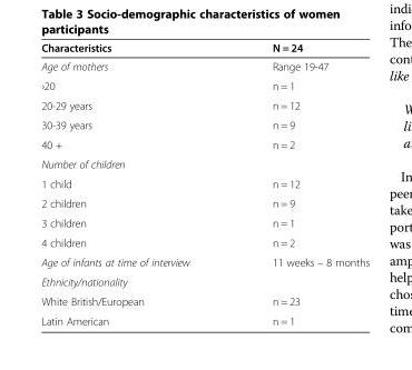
<table><thead><tr><td>Characteristics</td><td>N = 24</td></tr></thead><tbody><tr><td>Age of mothers</td><td>Range 19-47</td></tr><tr><td>›20</td><td>n = 1</td></tr><tr><td>20-29 years</td><td>n = 12</td></tr><tr><td>30-39 years</td><td>n = 9</td></tr><tr><td>40 +</td><td>n = 2</td></tr><tr><td colspan="2">Number of children</td></tr><tr><td>1 child</td><td>n = 12</td></tr><tr><td>2 children</td><td>n = 9</td></tr><tr><td>3 children</td><td>n = 1</td></tr><tr><td>4 children</td><td>n = 2</td></tr><tr><td>Age of infants at time of interview</td><td>11 weeks – 8 months</td></tr><tr><td colspan="2">Ethnicity/nationality</td></tr><tr><td>White British/European</td><td>n = 23</td></tr><tr><td>Latin American</td><td>n = 1</td></tr></tbody></table>